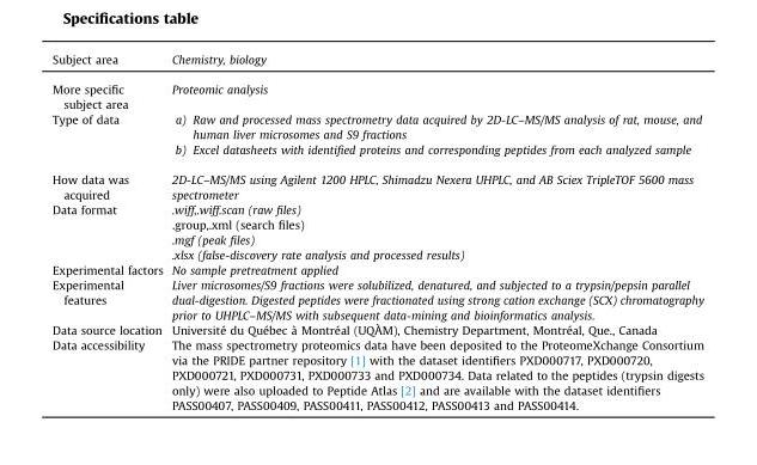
<table><thead><tr><td>Subject area</td><td>Chemistry, biology</td></tr></thead><tbody><tr><td>More specific subject area</td><td>Proteomic analysis</td></tr><tr><td>Type of data</td><td>a) Raw and processed mass spectrometry data acquired by 2D-LC–MS/MS analysis of rat, mouse, and human liver microsomes and S9 fractions b) Excel datasheets with identified proteins and corresponding peptides from each analyzed sample</td></tr><tr><td>How data was acquired</td><td>2D-LC–MS/MS using Agilent 1200 HPLC, Shimadzu Nexera UHPLC, and AB Sciex TripleTOF 5600 mass spectrometer</td></tr><tr><td rowspan="4">Data format</td><td>.wiff,.wiff.scan (raw files)</td></tr><tr><td>.group,.xml (search files)</td></tr><tr><td>.mgf (peak files)</td></tr><tr><td>.xlsx (false-discovery rate analysis and processed results)</td></tr><tr><td>Experimental factors</td><td>No sample pretreatment applied</td></tr><tr><td>Experimental features</td><td>Liver microsomes/S9 fractions were solubilized, denatured, and subjected to a trypsin/pepsin parallel dual-digestion. Digested peptides were fractionated using strong cation exchange (SCX) chromatography prior to UHPLC–MS/MS with subsequent data-mining and bioinformatics analysis.</td></tr><tr><td>Data source location</td><td>Université du Québec à Montréal (UQÀM), Chemistry Department, Montréal, Que., Canada</td></tr><tr><td>Data accessibility</td><td>The mass spectrometry proteomics data have been deposited to the ProteomeXchange Consortium via the PRIDE partner repository [1] with the dataset identifiers PXD000717, PXD000720, PXD000721, PXD000731, PXD000733 and PXD000734. Data related to the peptides (trypsin digests only) were also uploaded to Peptide Atlas [2] and are available with the dataset identifiers PASS00407, PASS00409, PASS00411, PASS00412, PASS00413 and PASS00414.</td></tr></tbody></table>